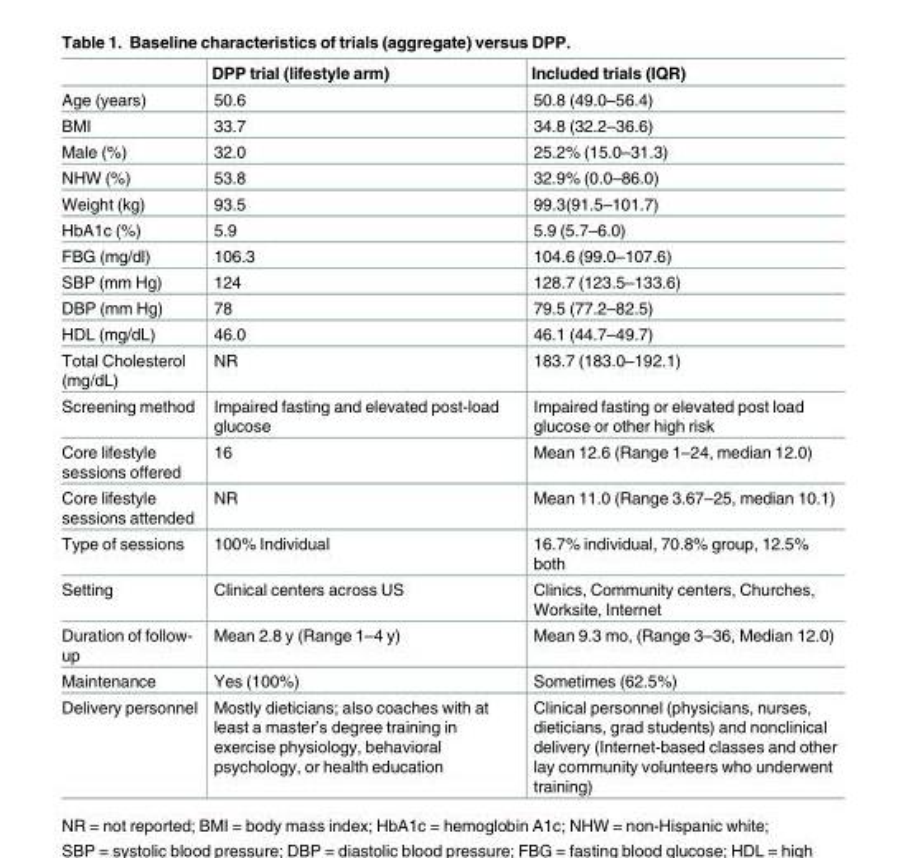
<table><thead><tr><td></td><td>DPP trial (lifestyle arm)</td><td>Included trials (IQR)</td></tr></thead><tbody><tr><td>Age (years)</td><td>50.6</td><td>50.8 (49.0–56.4)</td></tr><tr><td>BMI</td><td>33.7</td><td>34.8 (32.2–36.6)</td></tr><tr><td>Male (%)</td><td>32.0</td><td>25.2% (15.0–31.3)</td></tr><tr><td>NHW (%)</td><td>53.8</td><td>32.9% (0.0–86.0)</td></tr><tr><td>Weight (kg)</td><td>93.5</td><td>99.3(91.5–101.7)</td></tr><tr><td>HbA1c (%)</td><td>5.9</td><td>5.9 (5.7–6.0)</td></tr><tr><td>FBG (mg/dl)</td><td>106.3</td><td>104.6 (99.0–107.6)</td></tr><tr><td>SBP (mm Hg)</td><td>124</td><td>128.7 (123.5–133.6)</td></tr><tr><td>DBP (mm Hg)</td><td>78</td><td>79.5 (77.2–82.5)</td></tr><tr><td>HDL (mg/dL)</td><td>46.0</td><td>46.1 (44.7–49.7)</td></tr><tr><td>Total Cholesterol (mg/dL)</td><td>NR</td><td>183.7 (183.0–192.1)</td></tr><tr><td>Screening method</td><td>Impaired fasting and elevated post-load glucose</td><td>Impaired fasting or elevated post load glucose or other high risk</td></tr><tr><td>Core lifestyle sessions offered</td><td>16</td><td>Mean 12.6 (Range 1–24, median 12.0)</td></tr><tr><td>Core lifestyle sessions attended</td><td>NR</td><td>Mean 11.0 (Range 3.67–25, median 10.1)</td></tr><tr><td>Type of sessions</td><td>100% Individual</td><td>16.7% individual, 70.8% group, 12.5% both</td></tr><tr><td>Setting</td><td>Clinical centers across US</td><td>Clinics, Community centers, Churches, Worksite, Internet</td></tr><tr><td>Duration of follow- up</td><td>Mean 2.8 y (Range 1–4 y)</td><td>Mean 9.3 mo, (Range 3–36, Median 12.0)</td></tr><tr><td>Maintenance</td><td>Yes (100%)</td><td>Sometimes (62.5%)</td></tr><tr><td>Delivery personnel</td><td>Mostly dieticians; also coaches with at least a master’s degree training in exercise physiology, behavioral psychology, or health education</td><td>Clinical personnel (physicians, nurses, dieticians, grad students) and nonclinical delivery (Internet-based classes and other lay community volunteers who underwent training)</td></tr></tbody></table>